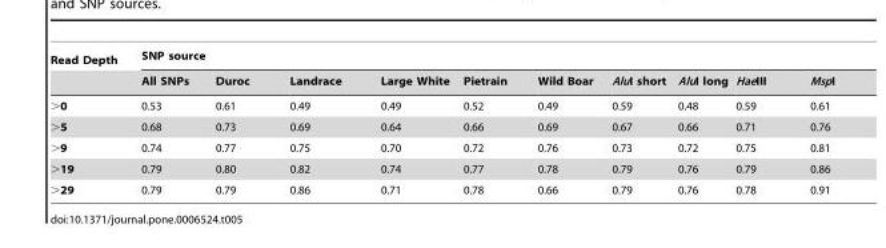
<table><thead><tr><td rowspan="2">Read Depth</td><td colspan="10">SNP source</td></tr><tr><td>All SNPs</td><td>Duroc</td><td>Landrace</td><td>Large White</td><td>Pietrain</td><td>Wild Boar</td><td>AluI short</td><td>AluI long</td><td>HaeIII</td><td>MspI</td></tr></thead><tbody><tr><td>&gt;0</td><td>0.53</td><td>0.61</td><td>0.49</td><td>0.49</td><td>0.52</td><td>0.49</td><td>0.59</td><td>0.48</td><td>0.59</td><td>0.61</td></tr><tr><td>&gt;5</td><td>0.68</td><td>0.73</td><td>0.69</td><td>0.64</td><td>0.66</td><td>0.69</td><td>0.67</td><td>0.66</td><td>0.71</td><td>0.76</td></tr><tr><td>&gt;9</td><td>0.74</td><td>0.77</td><td>0.75</td><td>0.70</td><td>0.72</td><td>0.76</td><td>0.73</td><td>0.72</td><td>0.75</td><td>0.81</td></tr><tr><td>&gt;19</td><td>0.79</td><td>0.80</td><td>0.82</td><td>0.74</td><td>0.77</td><td>0.78</td><td>0.79</td><td>0.76</td><td>0.79</td><td>0.86</td></tr><tr><td>&gt;29</td><td>0.79</td><td>0.79</td><td>0.86</td><td>0.71</td><td>0.78</td><td>0.66</td><td>0.79</td><td>0.76</td><td>0.78</td><td>0.91</td></tr></tbody></table>